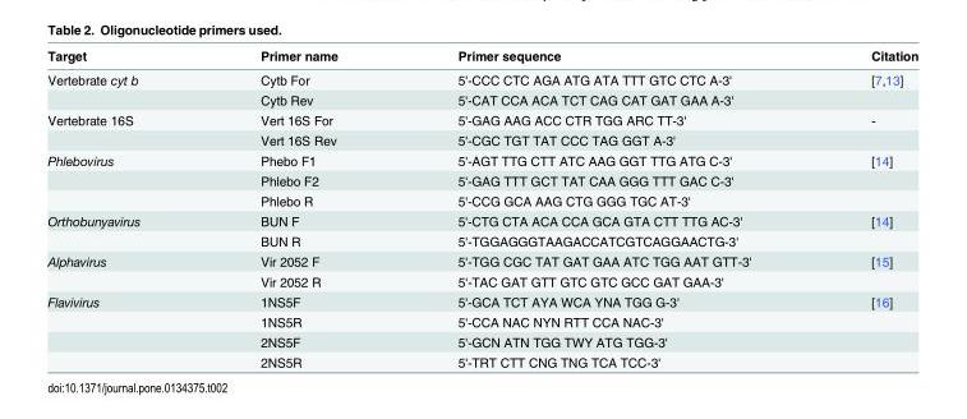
<table><thead><tr><td>Target</td><td>Primer name</td><td>Primer sequence</td><td>Citation</td></tr></thead><tbody><tr><td rowspan="2">Vertebrate cyt b</td><td>Cytb For</td><td>5&#x27;-CCC CTC AGA ATG ATA TTT GTC CTC A-3&#x27;</td><td>[7,13]</td></tr><tr><td>Cytb Rev</td><td>5&#x27;-CAT CCA ACA TCT CAG CAT GAT GAA A-3&#x27;</td><td></td></tr><tr><td rowspan="2">Vertebrate 16S</td><td>Vert 16S For</td><td>5&#x27;-GAG AAG ACC CTR TGG ARC TT-3&#x27;</td><td>-</td></tr><tr><td>Vert 16S Rev</td><td>5&#x27;-CGC TGT TAT CCC TAG GGT A-3&#x27;</td><td></td></tr><tr><td rowspan="3">Phlebovirus</td><td>Phebo F1</td><td>5&#x27;-AGT TTG CTT ATC AAG GGT TTG ATG C-3&#x27;</td><td>[14]</td></tr><tr><td>Phlebo F2</td><td>5&#x27;-GAG TTT GCT TAT CAA GGG TTT GAC C-3&#x27;</td><td></td></tr><tr><td>Phlebo R</td><td>5&#x27;-CCG GCA AAG CTG GGG TGC AT-3&#x27;</td><td></td></tr><tr><td rowspan="2">Orthobunyavirus</td><td>BUN F</td><td>5&#x27;-CTG CTA ACA CCA GCA GTA CTT TTG AC-3&#x27;</td><td>[14]</td></tr><tr><td>BUN R</td><td>5&#x27;-TGGAGGGTAAGACCATCGTCAGGAACTG-3&#x27;</td><td></td></tr><tr><td rowspan="2">Alphavirus</td><td>Vir 2052 F</td><td>5&#x27;-TGG CGC TAT GAT GAA ATC TGG AAT GTT-3&#x27;</td><td>[15]</td></tr><tr><td>Vir 2052 R</td><td>5&#x27;-TAC GAT GTT GTC GTC GCC GAT GAA-3&#x27;</td><td></td></tr><tr><td rowspan="4">Flavivirus</td><td>1NS5F</td><td>5&#x27;-GCA TCT AYA WCA YNA TGG G-3&#x27;</td><td>[16]</td></tr><tr><td>1NS5R</td><td>5&#x27;-CCA NAC NYN RTT CCA NAC-3&#x27;</td><td></td></tr><tr><td>2NS5F</td><td>5&#x27;-GCN ATN TGG TWY ATG TGG-3&#x27;</td><td></td></tr><tr><td>2NS5R</td><td>5&#x27;-TRT CTT CNG TNG TCA TCC-3&#x27;</td><td></td></tr></tbody></table>